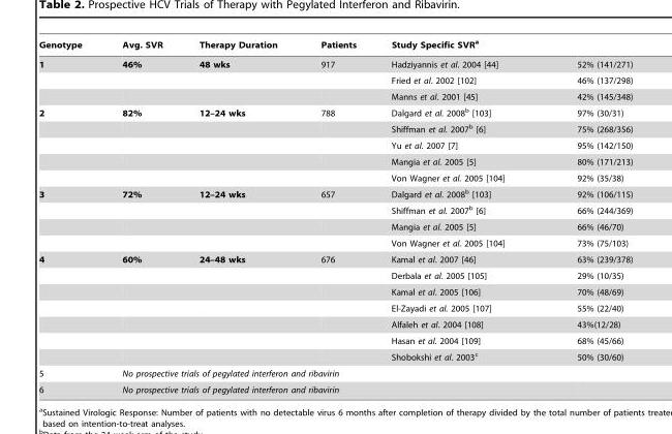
<table><thead><tr><td>Genotype</td><td>Avg. SVR</td><td>Therapy Duration</td><td>Patients</td><td>Study Specific SVR<sup>a</sup></td><td></td></tr></thead><tbody><tr><td rowspan="3">1</td><td>46%</td><td>48 wks</td><td>917</td><td>Hadziyannis et al. 2004 [44]</td><td>52% (141/271)</td></tr><tr><td></td><td></td><td></td><td>Fried et al. 2002 [102]</td><td>46% (137/298)</td></tr><tr><td></td><td></td><td></td><td>Manns et al. 2001 [45]</td><td>42% (145/348)</td></tr><tr><td rowspan="5">2</td><td>82%</td><td>12–24 wks</td><td>788</td><td>Dalgard et al. 2008<sup>b</sup> [103]</td><td>97% (30/31)</td></tr><tr><td></td><td></td><td></td><td>Shiffman et al. 2007<sup>b</sup> [6]</td><td>75% (268/356)</td></tr><tr><td></td><td></td><td></td><td>Yu et al. 2007 [7]</td><td>95% (142/150)</td></tr><tr><td></td><td></td><td></td><td>Mangia et al. 2005 [5]</td><td>80% (171/213)</td></tr><tr><td></td><td></td><td></td><td>Von Wagner et al. 2005 [104]</td><td>92% (35/38)</td></tr><tr><td rowspan="4">3</td><td>72%</td><td>12–24 wks</td><td>657</td><td>Dalgard et al. 2008<sup>b</sup> [103]</td><td>92% (106/115)</td></tr><tr><td></td><td></td><td></td><td>Shiffman et al. 2007<sup>b</sup> [6]</td><td>66% (244/369)</td></tr><tr><td></td><td></td><td></td><td>Mangia et al. 2005 [5]</td><td>66% (46/70)</td></tr><tr><td></td><td></td><td></td><td>Von Wagner et al. 2005 [104]</td><td>73% (75/103)</td></tr><tr><td rowspan="7">4</td><td>60%</td><td>24–48 wks</td><td>676</td><td>Kamal et al. 2007 [46]</td><td>63% (239/378)</td></tr><tr><td></td><td></td><td></td><td>Derbala et al. 2005 [105]</td><td>29% (10/35)</td></tr><tr><td></td><td></td><td></td><td>Kamal et al. 2005 [106]</td><td>70% (48/69)</td></tr><tr><td></td><td></td><td></td><td>El-Zayadi et al. 2005 [107]</td><td>55% (22/40)</td></tr><tr><td></td><td></td><td></td><td>Alfaleh et al. 2004 [108]</td><td>43%(12/28)</td></tr><tr><td></td><td></td><td></td><td>Hasan et al. 2004 [109]</td><td>68% (45/66)</td></tr><tr><td></td><td></td><td></td><td>Shobokshi et al. 2003<sup>c</sup></td><td>50% (30/60)</td></tr><tr><td>5</td><td colspan="4">No prospective trials of pegylated interferon and ribavirin</td><td></td></tr><tr><td>6</td><td colspan="4">No prospective trials of pegylated interferon and ribavirin</td><td></td></tr></tbody></table>